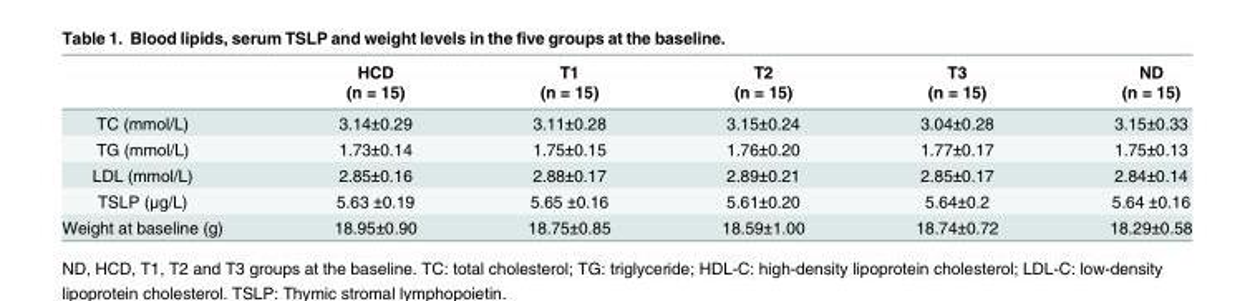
<table><thead><tr><td rowspan="2"></td><td rowspan="2">HCD (n = 15)</td><td rowspan="2">T1 (n = 15)</td><td rowspan="2">T2 (n = 15)</td><td rowspan="2">T3 (n = 15)</td><td rowspan="2">ND (n = 15)</td></tr><tr></tr></thead><tbody><tr><td>TC (mmol/L)</td><td>3.14±0.29</td><td>3.11±0.28</td><td>3.15±0.24</td><td>3.04±0.28</td><td>3.15±0.33</td></tr><tr><td>TG (mmol/L)</td><td>1.73±0.14</td><td>1.75±0.15</td><td>1.76±0.20</td><td>1.77±0.17</td><td>1.75±0.13</td></tr><tr><td>LDL (mmol/L)</td><td>2.85±0.16</td><td>2.88±0.17</td><td>2.89±0.21</td><td>2.85±0.17</td><td>2.84±0.14</td></tr><tr><td>TSLP (μg/L)</td><td>5.63 ±0.19</td><td>5.65 ±0.16</td><td>5.61±0.20</td><td>5.64±0.2</td><td>5.64 ±0.16</td></tr><tr><td>Weight at baseline (g)</td><td>18.95±0.90</td><td>18.75±0.85</td><td>18.59±1.00</td><td>18.74±0.72</td><td>18.29±0.58</td></tr></tbody></table>